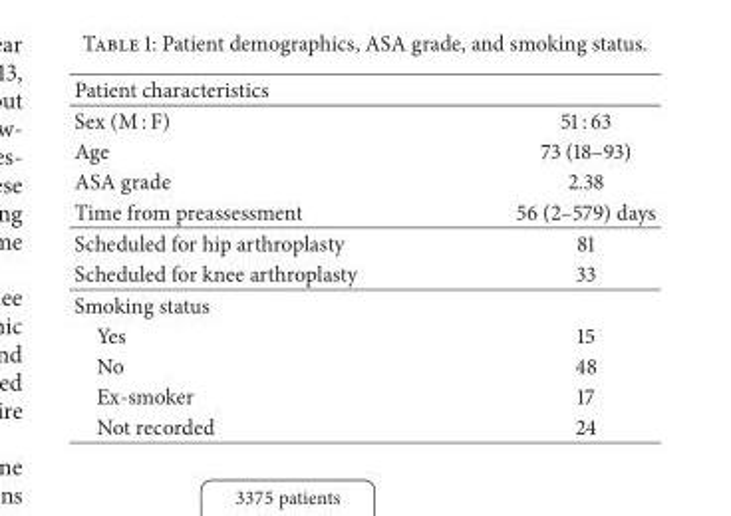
<table><thead><tr><td>Patient characteristics</td><td></td></tr></thead><tbody><tr><td>Sex (M : F)</td><td>51 : 63</td></tr><tr><td>Age</td><td>73 (18–93)</td></tr><tr><td>ASA grade</td><td>2.38</td></tr><tr><td>Time from preassessment</td><td>56 (2–579) days</td></tr><tr><td>Scheduled for hip arthroplasty</td><td>81</td></tr><tr><td>Scheduled for knee arthroplasty</td><td>33</td></tr><tr><td colspan="2">Smoking status</td></tr><tr><td>Yes</td><td>15</td></tr><tr><td>No</td><td>48</td></tr><tr><td>Ex-smoker</td><td>17</td></tr><tr><td>Not recorded</td><td>24</td></tr></tbody></table>